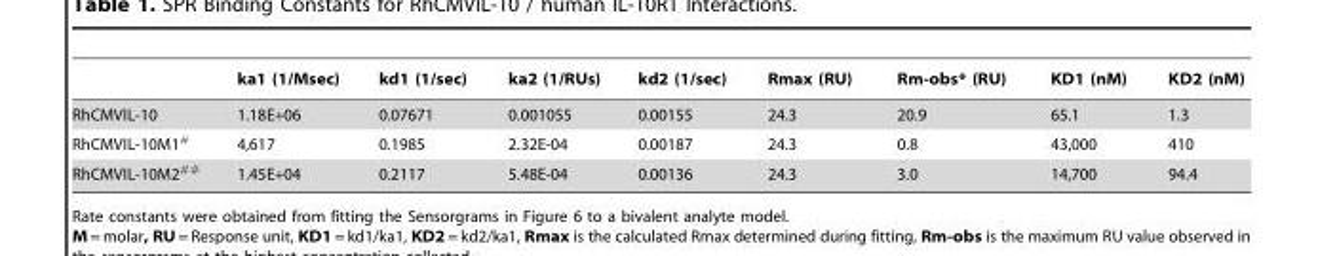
<table><thead><tr><td></td><td>ka1 (1/Msec)</td><td>kd1 (1/sec)</td><td>ka2 (1/RUs)</td><td>kd2 (1/sec)</td><td>Rmax (RU)</td><td>Rm-obs* (RU)</td><td>KD1 (nM)</td><td>KD2 (nM)</td></tr></thead><tbody><tr><td>RhCMVIL-10</td><td>1.18E+06</td><td>0.07671</td><td>0.001055</td><td>0.00155</td><td>24.3</td><td>20.9</td><td>65.1</td><td>1.3</td></tr><tr><td>RhCMVIL-10M1#</td><td>4,617</td><td>0.1985</td><td>2.32E-04</td><td>0.00187</td><td>24.3</td><td>0.8</td><td>43,000</td><td>410</td></tr><tr><td>RhCMVIL-10M2##</td><td>1.45E+04</td><td>0.2117</td><td>5.48E-04</td><td>0.00136</td><td>24.3</td><td>3.0</td><td>14,700</td><td>94.4</td></tr></tbody></table>